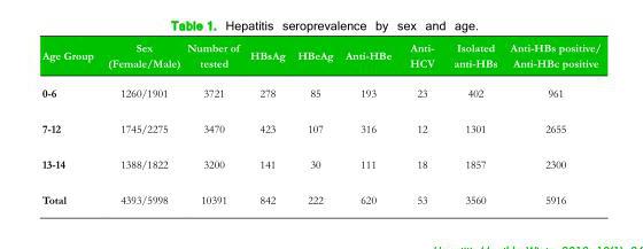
<table><thead><tr><td>Age Group</td><td>Sex (Female/Male)</td><td>Number of tested</td><td>HBsAg</td><td>HBeAg</td><td>Anti-HBe</td><td>Anti- HCV</td><td>Isolated anti-HBs</td><td>Anti-HBs positive/ Anti-HBc positive</td></tr></thead><tbody><tr><td>0-6</td><td>1260/1901</td><td>3721</td><td>278</td><td>85</td><td>193</td><td>23</td><td>402</td><td>961</td></tr><tr><td>7-12</td><td>1745/2275</td><td>3470</td><td>423</td><td>107</td><td>316</td><td>12</td><td>1301</td><td>2655</td></tr><tr><td>13-14</td><td>1388/1822</td><td>3200</td><td>141</td><td>30</td><td>111</td><td>18</td><td>1857</td><td>2300</td></tr><tr><td>Total</td><td>4393/5998</td><td>10391</td><td>842</td><td>222</td><td>620</td><td>53</td><td>3560</td><td>5916</td></tr></tbody></table>